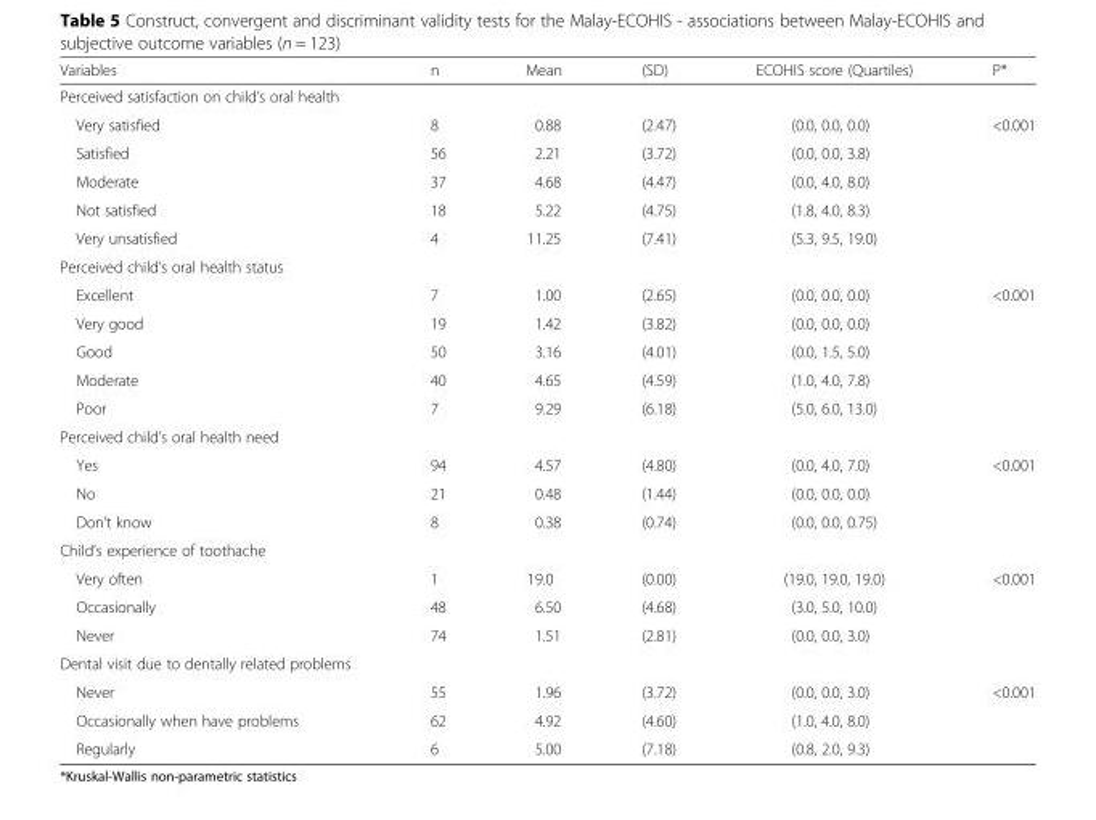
<table><thead><tr><td>Variables</td><td>n</td><td>Mean</td><td>(SD)</td><td>ECOHIS score (Quartiles)</td><td>P*</td></tr></thead><tbody><tr><td colspan="6">Perceived satisfaction on child’s oral health</td></tr><tr><td>Very satisfied</td><td>8</td><td>0.88</td><td>(2.47)</td><td>(0.0, 0.0, 0.0)</td><td>&lt;0.001</td></tr><tr><td>Satisfied</td><td>56</td><td>2.21</td><td>(3.72)</td><td>(0.0, 0.0, 3.8)</td><td></td></tr><tr><td>Moderate</td><td>37</td><td>4.68</td><td>(4.47)</td><td>(0.0, 4.0, 8.0)</td><td></td></tr><tr><td>Not satisfied</td><td>18</td><td>5.22</td><td>(4.75)</td><td>(1.8, 4.0, 8.3)</td><td></td></tr><tr><td>Very unsatisfied</td><td>4</td><td>11.25</td><td>(7.41)</td><td>(5.3, 9.5, 19.0)</td><td></td></tr><tr><td colspan="6">Perceived child’s oral health status</td></tr><tr><td>Excellent</td><td>7</td><td>1.00</td><td>(2.65)</td><td>(0.0, 0.0, 0.0)</td><td>&lt;0.001</td></tr><tr><td>Very good</td><td>19</td><td>1.42</td><td>(3.82)</td><td>(0.0, 0.0, 0.0)</td><td></td></tr><tr><td>Good</td><td>50</td><td>3.16</td><td>(4.01)</td><td>(0.0, 1.5, 5.0)</td><td></td></tr><tr><td>Moderate</td><td>40</td><td>4.65</td><td>(4.59)</td><td>(1.0, 4.0, 7.8)</td><td></td></tr><tr><td>Poor</td><td>7</td><td>9.29</td><td>(6.18)</td><td>(5.0, 6.0, 13.0)</td><td></td></tr><tr><td colspan="6">Perceived child’s oral health need</td></tr><tr><td>Yes</td><td>94</td><td>4.57</td><td>(4.80)</td><td>(0.0, 4.0, 7.0)</td><td>&lt;0.001</td></tr><tr><td>No</td><td>21</td><td>0.48</td><td>(1.44)</td><td>(0.0, 0.0, 0.0)</td><td></td></tr><tr><td>Don’t know</td><td>8</td><td>0.38</td><td>(0.74)</td><td>(0.0, 0.0, 0.75)</td><td></td></tr><tr><td colspan="6">Child’s experience of toothache</td></tr><tr><td>Very often</td><td>1</td><td>19.0</td><td>(0.00)</td><td>(19.0, 19.0, 19.0)</td><td>&lt;0.001</td></tr><tr><td>Occasionally</td><td>48</td><td>6.50</td><td>(4.68)</td><td>(3.0, 5.0, 10.0)</td><td></td></tr><tr><td>Never</td><td>74</td><td>1.51</td><td>(2.81)</td><td>(0.0, 0.0, 3.0)</td><td></td></tr><tr><td colspan="6">Dental visit due to dentally related problems</td></tr><tr><td>Never</td><td>55</td><td>1.96</td><td>(3.72)</td><td>(0.0, 0.0, 3.0)</td><td>&lt;0.001</td></tr><tr><td>Occasionally when have problems</td><td>62</td><td>4.92</td><td>(4.60)</td><td>(1.0, 4.0, 8.0)</td><td></td></tr><tr><td>Regularly</td><td>6</td><td>5.00</td><td>(7.18)</td><td>(0.8, 2.0, 9.3)</td><td></td></tr></tbody></table>